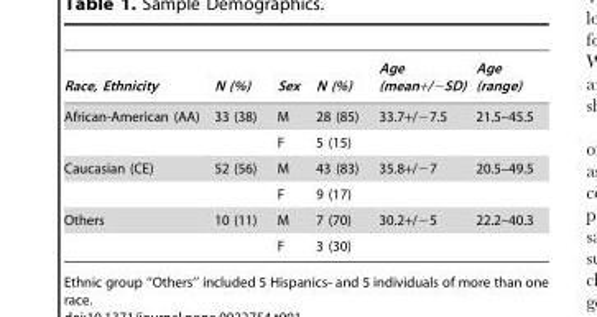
<table><thead><tr><td>Race, Ethnicity</td><td>N (%)</td><td>Sex</td><td>N (%)</td><td>Age (mean+/−SD)</td><td>Age (range)</td></tr></thead><tbody><tr><td rowspan="2">African-American (AA)</td><td>33 (38)</td><td>M</td><td>28 (85)</td><td>33.7+/−7.5</td><td>21.5–45.5</td></tr><tr><td></td><td>F</td><td>5 (15)</td><td></td><td></td></tr><tr><td rowspan="2">Caucasian (CE)</td><td>52 (56)</td><td>M</td><td>43 (83)</td><td>35.8+/−7</td><td>20.5–49.5</td></tr><tr><td></td><td>F</td><td>9 (17)</td><td></td><td></td></tr><tr><td rowspan="2">Others</td><td>10 (11)</td><td>M</td><td>7 (70)</td><td>30.2+/−5</td><td>22.2–40.3</td></tr><tr><td></td><td>F</td><td>3 (30)</td><td></td><td></td></tr></tbody></table>